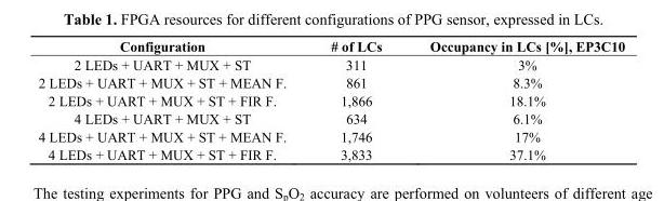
<table><thead><tr><td>Configuration</td><td># of LCs</td><td>Occupancy in LCs [%], EP3C10</td></tr></thead><tbody><tr><td>2 LEDs + UART + MUX + ST</td><td>311</td><td>3%</td></tr><tr><td>2 LEDs + UART + MUX + ST + MEAN F.</td><td>861</td><td>8.3%</td></tr><tr><td>2 LEDs + UART + MUX + ST + FIR F.</td><td>1,866</td><td>18.1%</td></tr><tr><td>4 LEDs + UART + MUX + ST</td><td>634</td><td>6.1%</td></tr><tr><td>4 LEDs + UART + MUX + ST + MEAN F.</td><td>1,746</td><td>17%</td></tr><tr><td>4 LEDs + UART + MUX + ST + FIR F.</td><td>3,833</td><td>37.1%</td></tr></tbody></table>